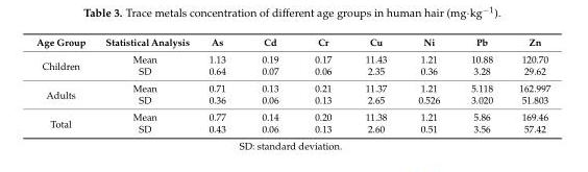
<table><thead><tr><td>Age Group</td><td>Statistical Analysis</td><td>As</td><td>Cd</td><td>Cr</td><td>Cu</td><td>Ni</td><td>Pb</td><td>Zn</td></tr></thead><tbody><tr><td rowspan="2">Children</td><td>Mean</td><td>1.13</td><td>0.19</td><td>0.17</td><td>11.43</td><td>1.21</td><td>10.88</td><td>120.70</td></tr><tr><td>SD</td><td>0.64</td><td>0.07</td><td>0.06</td><td>2.35</td><td>0.36</td><td>3.28</td><td>29.62</td></tr><tr><td rowspan="2">Adults</td><td>Mean</td><td>0.71</td><td>0.13</td><td>0.21</td><td>11.37</td><td>1.21</td><td>5.118</td><td>162.997</td></tr><tr><td>SD</td><td>0.36</td><td>0.06</td><td>0.13</td><td>2.65</td><td>0.526</td><td>3.020</td><td>51.803</td></tr><tr><td rowspan="2">Total</td><td>Mean</td><td>0.77</td><td>0.14</td><td>0.20</td><td>11.38</td><td>1.21</td><td>5.86</td><td>169.46</td></tr><tr><td>SD</td><td>0.43</td><td>0.06</td><td>0.13</td><td>2.60</td><td>0.51</td><td>3.56</td><td>57.42</td></tr></tbody></table>